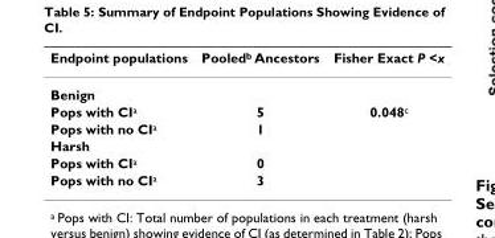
<table><thead><tr><td>Endpoint populations</td><td>Pooled<sup>b</sup> Ancestors</td><td>Fisher Exact P &lt;x</td></tr></thead><tbody><tr><td colspan="3">Benign</td></tr><tr><td>Pops with CI<sup>a</sup></td><td>5</td><td>0.048<sup>c</sup></td></tr><tr><td>Pops with no CI<sup>a</sup></td><td>1</td><td></td></tr><tr><td colspan="3">Harsh</td></tr><tr><td>Pops with CI<sup>a</sup></td><td>0</td><td></td></tr><tr><td>Pops with no CI<sup>a</sup></td><td>3</td><td></td></tr></tbody></table>